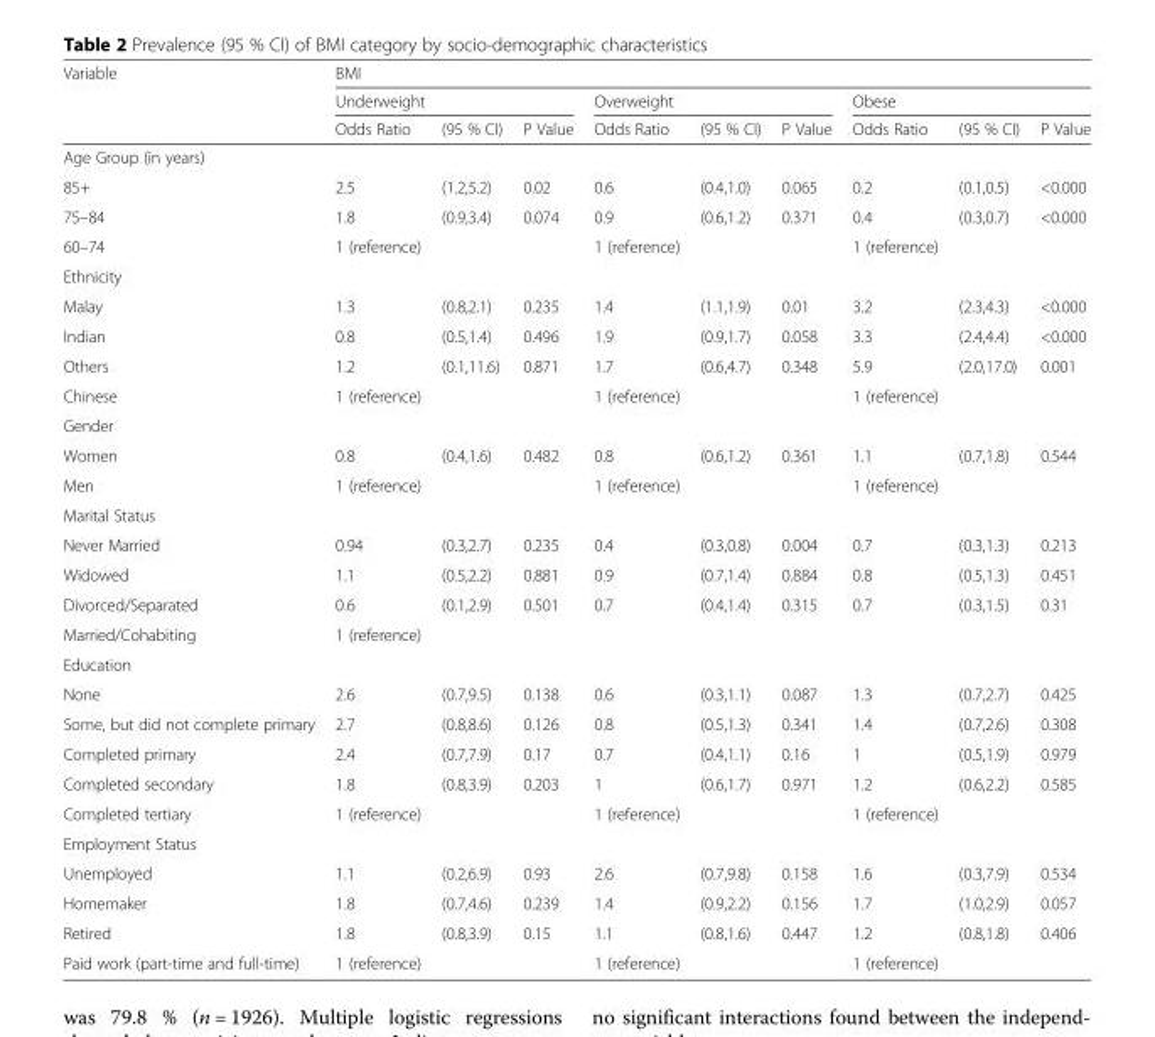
<table><thead><tr><td rowspan="3">Variable</td><td colspan="9">BMI</td></tr><tr><td colspan="3">Underweight</td><td colspan="3">Overweight</td><td colspan="3">Obese</td></tr><tr><td>Odds Ratio</td><td>(95 % CI)</td><td>P Value</td><td>Odds Ratio</td><td>(95 % CI)</td><td>P Value</td><td>Odds Ratio</td><td>(95 % CI)</td><td>P Value</td></tr></thead><tbody><tr><td colspan="10">Age Group (in years)</td></tr><tr><td>85+</td><td>2.5</td><td>(1.2,5.2)</td><td>0.02</td><td>0.6</td><td>(0.4,1.0)</td><td>0.065</td><td>0.2</td><td>(0.1,0.5)</td><td>&lt;0.000</td></tr><tr><td>75–84</td><td>1.8</td><td>(0.9,3.4)</td><td>0.074</td><td>0.9</td><td>(0.6,1.2)</td><td>0.371</td><td>0.4</td><td>(0.3,0.7)</td><td>&lt;0.000</td></tr><tr><td>60–74</td><td>1 (reference)</td><td></td><td></td><td>1 (reference)</td><td></td><td></td><td>1 (reference)</td><td></td><td></td></tr><tr><td colspan="10">Ethnicity</td></tr><tr><td>Malay</td><td>1.3</td><td>(0.8,2.1)</td><td>0.235</td><td>1.4</td><td>(1.1,1.9)</td><td>0.01</td><td>3.2</td><td>(2.3,4.3)</td><td>&lt;0.000</td></tr><tr><td>Indian</td><td>0.8</td><td>(0.5,1.4)</td><td>0.496</td><td>1.9</td><td>(0.9,1.7)</td><td>0.058</td><td>3.3</td><td>(2.4,4.4)</td><td>&lt;0.000</td></tr><tr><td>Others</td><td>1.2</td><td>(0.1,11.6)</td><td>0.871</td><td>1.7</td><td>(0.6,4.7)</td><td>0.348</td><td>5.9</td><td>(2.0,17.0)</td><td>0.001</td></tr><tr><td>Chinese</td><td>1 (reference)</td><td></td><td></td><td>1 (reference)</td><td></td><td></td><td>1 (reference)</td><td></td><td></td></tr><tr><td colspan="10">Gender</td></tr><tr><td>Women</td><td>0.8</td><td>(0.4,1.6)</td><td>0.482</td><td>0.8</td><td>(0.6,1.2)</td><td>0.361</td><td>1.1</td><td>(0.7,1.8)</td><td>0.544</td></tr><tr><td>Men</td><td>1 (reference)</td><td></td><td></td><td>1 (reference)</td><td></td><td></td><td>1 (reference)</td><td></td><td></td></tr><tr><td colspan="10">Marital Status</td></tr><tr><td>Never Married</td><td>0.94</td><td>(0.3,2.7)</td><td>0.235</td><td>0.4</td><td>(0.3,0.8)</td><td>0.004</td><td>0.7</td><td>(0.3,1.3)</td><td>0.213</td></tr><tr><td>Widowed</td><td>1.1</td><td>(0.5,2.2)</td><td>0.881</td><td>0.9</td><td>(0.7,1.4)</td><td>0.884</td><td>0.8</td><td>(0.5,1.3)</td><td>0.451</td></tr><tr><td>Divorced/Separated</td><td>0.6</td><td>(0.1,2.9)</td><td>0.501</td><td>0.7</td><td>(0.4,1.4)</td><td>0.315</td><td>0.7</td><td>(0.3,1.5)</td><td>0.31</td></tr><tr><td>Married/Cohabiting</td><td>1 (reference)</td><td></td><td></td><td></td><td></td><td></td><td></td><td></td><td></td></tr><tr><td colspan="10">Education</td></tr><tr><td>None</td><td>2.6</td><td>(0.7,9.5)</td><td>0.138</td><td>0.6</td><td>(0.3,1.1)</td><td>0.087</td><td>1.3</td><td>(0.7,2.7)</td><td>0.425</td></tr><tr><td>Some, but did not complete primary</td><td>2.7</td><td>(0.8,8.6)</td><td>0.126</td><td>0.8</td><td>(0.5,1.3)</td><td>0.341</td><td>1.4</td><td>(0.7,2.6)</td><td>0.308</td></tr><tr><td>Completed primary</td><td>2.4</td><td>(0.7,7.9)</td><td>0.17</td><td>0.7</td><td>(0.4,1.1)</td><td>0.16</td><td>1</td><td>(0.5,1.9)</td><td>0.979</td></tr><tr><td>Completed secondary</td><td>1.8</td><td>(0.8,3.9)</td><td>0.203</td><td>1</td><td>(0.6,1.7)</td><td>0.971</td><td>1.2</td><td>(0.6,2.2)</td><td>0.585</td></tr><tr><td>Completed tertiary</td><td>1 (reference)</td><td></td><td></td><td>1 (reference)</td><td></td><td></td><td>1 (reference)</td><td></td><td></td></tr><tr><td colspan="10">Employment Status</td></tr><tr><td>Unemployed</td><td>1.1</td><td>(0.2,6.9)</td><td>0.93</td><td>2.6</td><td>(0.7,9.8)</td><td>0.158</td><td>1.6</td><td>(0.3,7.9)</td><td>0.534</td></tr><tr><td>Homemaker</td><td>1.8</td><td>(0.7,4.6)</td><td>0.239</td><td>1.4</td><td>(0.9,2.2)</td><td>0.156</td><td>1.7</td><td>(1.0,2.9)</td><td>0.057</td></tr><tr><td>Retired</td><td>1.8</td><td>(0.8,3.9)</td><td>0.15</td><td>1.1</td><td>(0.8,1.6)</td><td>0.447</td><td>1.2</td><td>(0.8,1.8)</td><td>0.406</td></tr><tr><td>Paid work (part-time and full-time)</td><td>1 (reference)</td><td></td><td></td><td>1 (reference)</td><td></td><td></td><td>1 (reference)</td><td></td><td></td></tr></tbody></table>